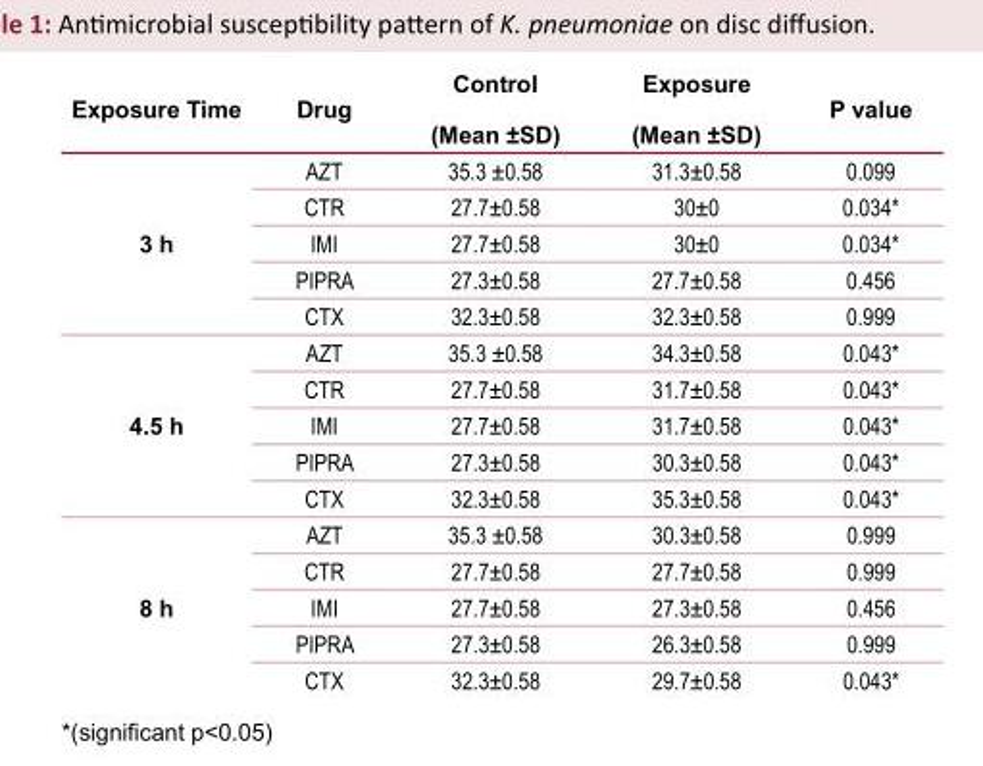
<table><thead><tr><td>Exposure Time</td><td>Drug</td><td>Control (Mean ±SD)</td><td>Exposure (Mean ±SD)</td><td>P value</td></tr></thead><tbody><tr><td rowspan="5">3 h</td><td>AZT</td><td>35.3 ±0.58</td><td>31.3±0.58</td><td>0.099</td></tr><tr><td>CTR</td><td>27.7±0.58</td><td>30±0</td><td>0.034*</td></tr><tr><td>IMI</td><td>27.7±0.58</td><td>30±0</td><td>0.034*</td></tr><tr><td>PIPRA</td><td>27.3±0.58</td><td>27.7±0.58</td><td>0.456</td></tr><tr><td>CTX</td><td>32.3±0.58</td><td>32.3±0.58</td><td>0.999</td></tr><tr><td rowspan="5">4.5 h</td><td>AZT</td><td>35.3 ±0.58</td><td>34.3±0.58</td><td>0.043*</td></tr><tr><td>CTR</td><td>27.7±0.58</td><td>31.7±0.58</td><td>0.043*</td></tr><tr><td>IMI</td><td>27.7±0.58</td><td>31.7±0.58</td><td>0.043*</td></tr><tr><td>PIPRA</td><td>27.3±0.58</td><td>30.3±0.58</td><td>0.043*</td></tr><tr><td>CTX</td><td>32.3±0.58</td><td>35.3±0.58</td><td>0.043*</td></tr><tr><td rowspan="5">8 h</td><td>AZT</td><td>35.3 ±0.58</td><td>30.3±0.58</td><td>0.999</td></tr><tr><td>CTR</td><td>27.7±0.58</td><td>27.7±0.58</td><td>0.999</td></tr><tr><td>IMI</td><td>27.7±0.58</td><td>27.3±0.58</td><td>0.456</td></tr><tr><td>PIPRA</td><td>27.3±0.58</td><td>26.3±0.58</td><td>0.999</td></tr><tr><td>CTX</td><td>32.3±0.58</td><td>29.7±0.58</td><td>0.043*</td></tr></tbody></table>